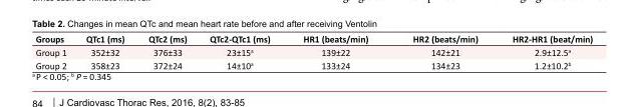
<table><tbody><tr><td>Groups</td><td>QTc1 (ms)</td><td>QTc2 (ms)</td><td>QTc2-QTc1 (ms)</td><td>HR1 (beats/min)</td><td>HR2 (beats/min)</td><td>HR2-HR1 (beat/min)</td></tr><tr><td>Group 1</td><td>352±32</td><td>376±33</td><td>23±15<sup>a</sup></td><td>139±22</td><td>142±21</td><td>2.9±12.5<sup>a</sup></td></tr><tr><td>Group 2</td><td>358±23</td><td>372±24</td><td>14±10<sup>a</sup></td><td>133±24</td><td>134±23</td><td>1.2±10.2<sup>b</sup></td></tr></tbody></table>